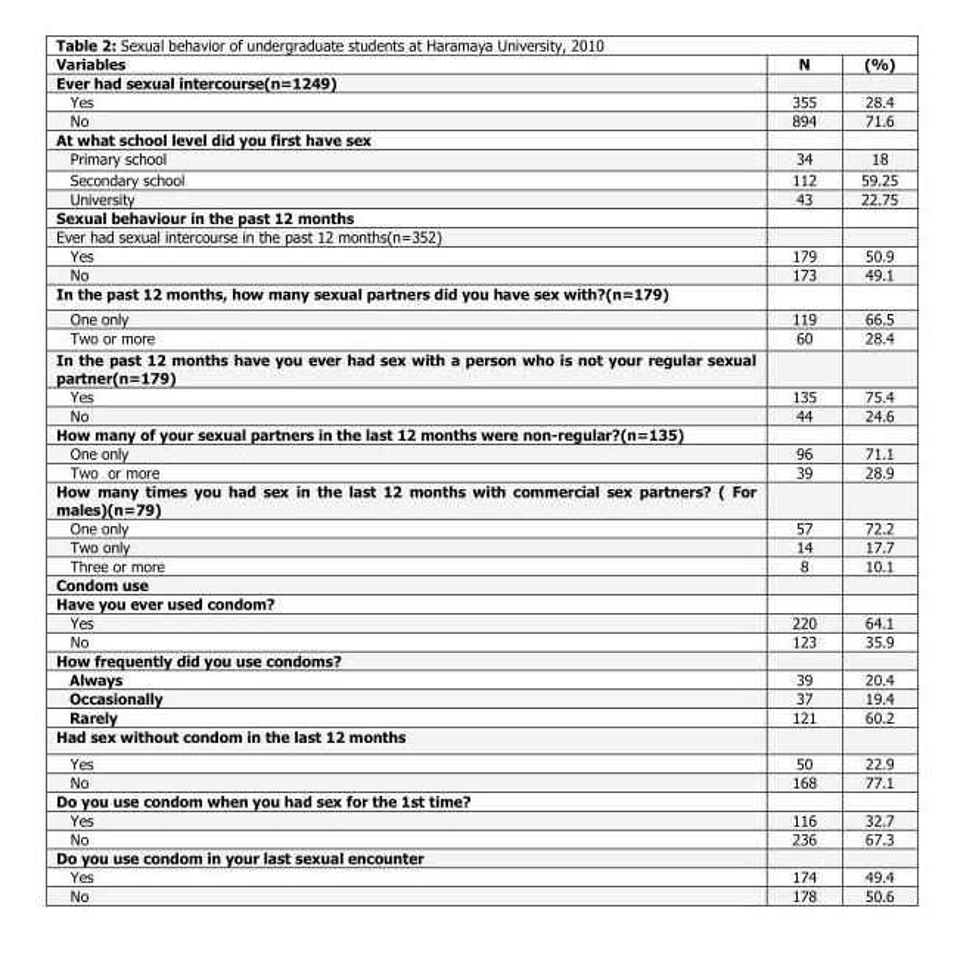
<table><thead><tr><td>Variables</td><td>N</td><td>(%)</td></tr></thead><tbody><tr><td colspan="3">Ever had sexual intercourse(n=1249)</td></tr><tr><td>Yes</td><td>355</td><td>28.4</td></tr><tr><td>No</td><td>894</td><td>71.6</td></tr><tr><td colspan="3">At what school level did you first have sex</td></tr><tr><td>Primary school</td><td>34</td><td>18</td></tr><tr><td>Secondary school</td><td>112</td><td>59.25</td></tr><tr><td>University</td><td>43</td><td>22.75</td></tr><tr><td colspan="3">Sexual behaviour in the past 12 months</td></tr><tr><td colspan="3">Ever had sexual intercourse in the past 12 months(n=352)</td></tr><tr><td>Yes</td><td>179</td><td>50.9</td></tr><tr><td>No</td><td>173</td><td>49.1</td></tr><tr><td colspan="3">In the past 12 months, how many sexual partners did you have sex with?(n=179)</td></tr><tr><td>One only</td><td>119</td><td>66.5</td></tr><tr><td>Two or more</td><td>60</td><td>28.4</td></tr><tr><td colspan="3">In the past 12 months have you ever had sex with a person who is not your regular sexual partner(n=179)</td></tr><tr><td>Yes</td><td>135</td><td>75.4</td></tr><tr><td>No</td><td>44</td><td>24.6</td></tr><tr><td colspan="3">How many of your sexual partners in the last 12 months were non-regular?(n=135)</td></tr><tr><td>One only</td><td>96</td><td>71.1</td></tr><tr><td>Two or more</td><td>39</td><td>28.9</td></tr><tr><td colspan="3">How many times you had sex in the last 12 months with commercial sex partners? ( For males)(n=79)</td></tr><tr><td>One only</td><td>57</td><td>72.2</td></tr><tr><td>Two only</td><td>14</td><td>17.7</td></tr><tr><td>Three or more</td><td>8</td><td>10.1</td></tr><tr><td colspan="3">Condom use</td></tr><tr><td colspan="3">Have you ever used condom?</td></tr><tr><td>Yes</td><td>220</td><td>64.1</td></tr><tr><td>No</td><td>123</td><td>35.9</td></tr><tr><td colspan="3">How frequently did you use condoms?</td></tr><tr><td>Always</td><td>39</td><td>20.4</td></tr><tr><td>Occasionally</td><td>37</td><td>19.4</td></tr><tr><td>Rarely</td><td>121</td><td>60.2</td></tr><tr><td colspan="3">Had sex without condom in the last 12 months</td></tr><tr><td>Yes</td><td>50</td><td>22.9</td></tr><tr><td>No</td><td>168</td><td>77.1</td></tr><tr><td colspan="3">Do you use condom when you had sex for the 1st time?</td></tr><tr><td>Yes</td><td>116</td><td>32.7</td></tr><tr><td>No</td><td>236</td><td>67.3</td></tr><tr><td colspan="3">Do you use condom in your last sexual encounter</td></tr><tr><td>Yes</td><td>174</td><td>49.4</td></tr><tr><td>No</td><td>178</td><td>50.6</td></tr></tbody></table>